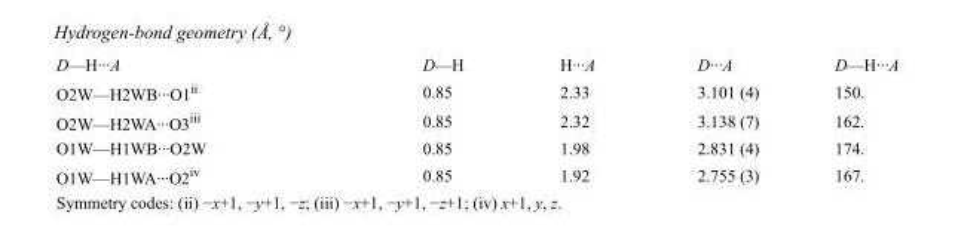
<table><tbody><tr><td>D—H···A</td><td>D—H</td><td>H···A</td><td>D···A</td><td>D—H···A</td></tr><tr><td>O2W—H2WB···O1<sup>ii</sup></td><td>0.85</td><td>2.33</td><td>3.101 (4)</td><td>150.</td></tr><tr><td>O2W—H2WA···O3<sup>iii</sup></td><td>0.85</td><td>2.32</td><td>3.138 (7)</td><td>162.</td></tr><tr><td>O1W—H1WB···O2W</td><td>0.85</td><td>1.98</td><td>2.831 (4)</td><td>174.</td></tr><tr><td>O1W—H1WA···O2<sup>iv</sup></td><td>0.85</td><td>1.92</td><td>2.755 (3)</td><td>167.</td></tr></tbody></table>